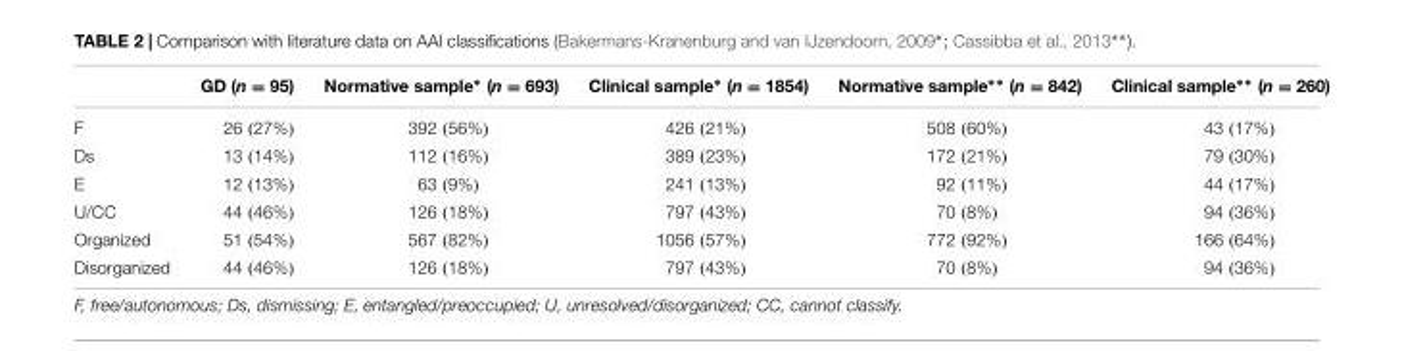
<table><thead><tr><td></td><td>GD (n = 95)</td><td>Normative sample∗ (n = 693)</td><td>Clinical sample∗ (n = 1854)</td><td>Normative sample∗∗ (n = 842)</td><td>Clinical sample∗∗ (n = 260)</td></tr></thead><tbody><tr><td>F</td><td>26 (27%)</td><td>392 (56%)</td><td>426 (21%)</td><td>508 (60%)</td><td>43 (17%)</td></tr><tr><td>Ds</td><td>13 (14%)</td><td>112 (16%)</td><td>389 (23%)</td><td>172 (21%)</td><td>79 (30%)</td></tr><tr><td>E</td><td>12 (13%)</td><td>63 (9%)</td><td>241 (13%)</td><td>92 (11%)</td><td>44 (17%)</td></tr><tr><td>U/CC</td><td>44 (46%)</td><td>126 (18%)</td><td>797 (43%)</td><td>70 (8%)</td><td>94 (36%)</td></tr><tr><td>Organized</td><td>51 (54%)</td><td>567 (82%)</td><td>1056 (57%)</td><td>772 (92%)</td><td>166 (64%)</td></tr><tr><td>Disorganized</td><td>44 (46%)</td><td>126 (18%)</td><td>797 (43%)</td><td>70 (8%)</td><td>94 (36%)</td></tr></tbody></table>